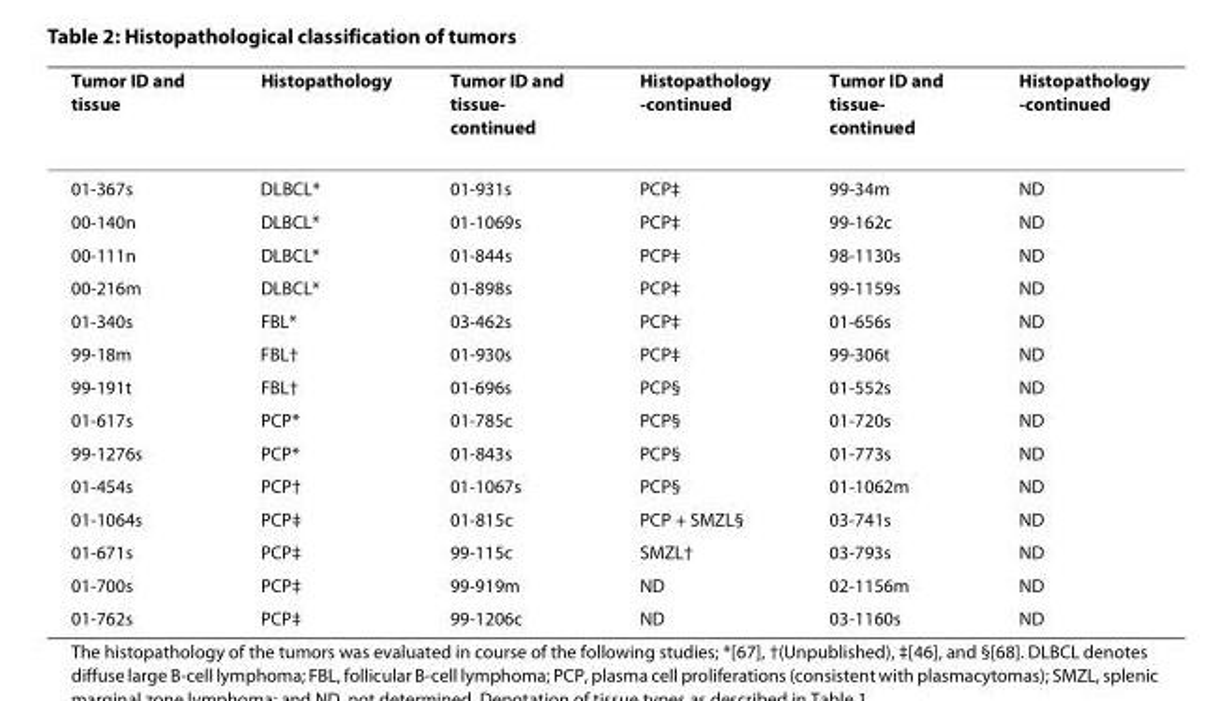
<table><thead><tr><td>Tumor ID and tissue</td><td>Histopathology</td><td>Tumor ID and tissue- continued</td><td>Histopathology -continued</td><td>Tumor ID and tissue- continued</td><td>Histopathology -continued</td></tr></thead><tbody><tr><td>01-367s</td><td>DLBCL*</td><td>01-931s</td><td>PCP‡</td><td>99-34m</td><td>ND</td></tr><tr><td>00-140n</td><td>DLBCL*</td><td>01-1069s</td><td>PCP‡</td><td>99-162c</td><td>ND</td></tr><tr><td>00-111n</td><td>DLBCL*</td><td>01-844s</td><td>PCP‡</td><td>98-1130s</td><td>ND</td></tr><tr><td>00-216m</td><td>DLBCL*</td><td>01-898s</td><td>PCP‡</td><td>99-1159s</td><td>ND</td></tr><tr><td>01-340s</td><td>FBL*</td><td>03-462s</td><td>PCP‡</td><td>01-656s</td><td>ND</td></tr><tr><td>99-18m</td><td>FBL†</td><td>01-930s</td><td>PCP‡</td><td>99-306t</td><td>ND</td></tr><tr><td>99-191t</td><td>FBL†</td><td>01-696s</td><td>PCP§</td><td>01-552s</td><td>ND</td></tr><tr><td>01-617s</td><td>PCP*</td><td>01-785c</td><td>PCP§</td><td>01-720s</td><td>ND</td></tr><tr><td>99-1276s</td><td>PCP*</td><td>01-843s</td><td>PCP§</td><td>01-773s</td><td>ND</td></tr><tr><td>01-454s</td><td>PCP†</td><td>01-1067s</td><td>PCP§</td><td>01-1062m</td><td>ND</td></tr><tr><td>01-1064s</td><td>PCP‡</td><td>01-815c</td><td>PCP + SMZL§</td><td>03-741s</td><td>ND</td></tr><tr><td>01-671s</td><td>PCP‡</td><td>99-115c</td><td>SMZL†</td><td>03-793s</td><td>ND</td></tr><tr><td>01-700s</td><td>PCP‡</td><td>99-919m</td><td>ND</td><td>02-1156m</td><td>ND</td></tr><tr><td>01-762s</td><td>PCP‡</td><td>99-1206c</td><td>ND</td><td>03-1160s</td><td>ND</td></tr></tbody></table>